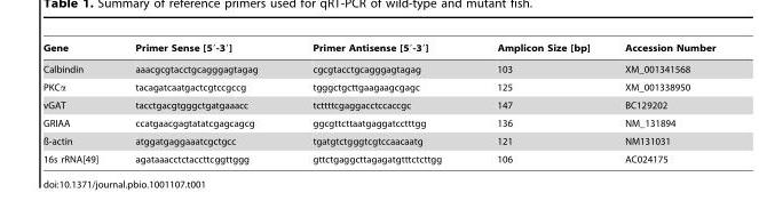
<table><thead><tr><td>Gene</td><td>Primer Sense [5′-3′]</td><td>Primer Antisense [5′-3′]</td><td>Amplicon Size [bp]</td><td>Accession Number</td></tr></thead><tbody><tr><td>Calbindin</td><td>aaacgcgtacctgcagggagtagag</td><td>cgcgtacctgcagggagtagag</td><td>103</td><td>XM_001341568</td></tr><tr><td>PKCα</td><td>tacagatcaatgactcgtccgccg</td><td>tgggctgcttgaagaagcgagc</td><td>125</td><td>XM_001338950</td></tr><tr><td>vGAT</td><td>tacctgacgtgggctgatgaaacc</td><td>tcttttcgaggacctccaccgc</td><td>147</td><td>BC129202</td></tr><tr><td>GRIAA</td><td>ccatgaacgagtatatcgagcagcg</td><td>ggcgttcttaatgaggatcctttgg</td><td>136</td><td>NM_131894</td></tr><tr><td>ß-actin</td><td>atggatgaggaaatcgctgcc</td><td>tgatgtctgggtcgtccaacaatg</td><td>121</td><td>NM131031</td></tr><tr><td>16s rRNA[49]</td><td>agataaacctctaccttcggttggg</td><td>gttctgaggcttagagatgtttctcttgg</td><td>106</td><td>AC024175</td></tr></tbody></table>